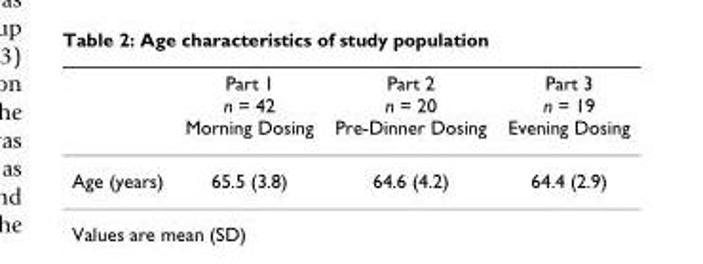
<table><thead><tr><td></td><td>Part 1 n = 42 Morning Dosing</td><td>Part 2 n = 20 Pre-Dinner Dosing</td><td>Part 3 n = 19 Evening Dosing</td></tr></thead><tbody><tr><td>Age (years)</td><td>65.5 (3.8)</td><td>64.6 (4.2)</td><td>64.4 (2.9)</td></tr></tbody></table>